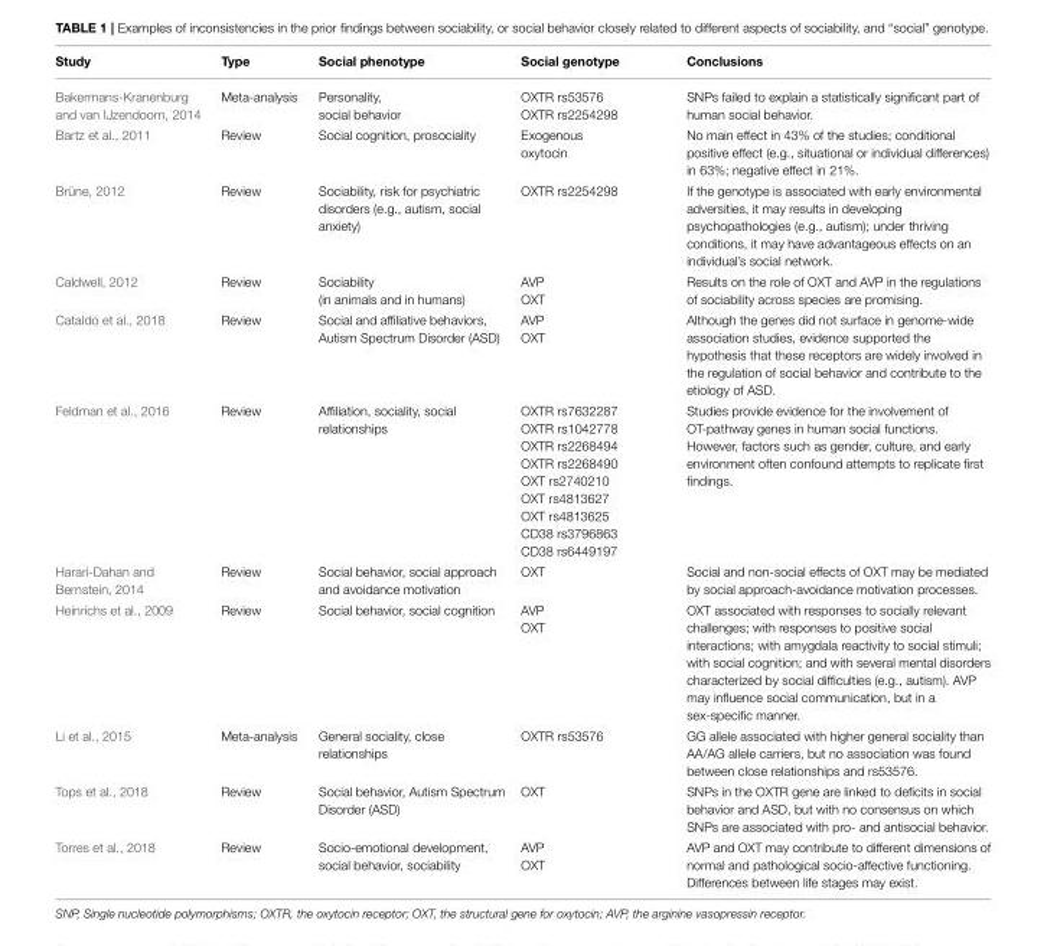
<table><thead><tr><td>Study</td><td>Type</td><td>Social phenotype</td><td>Social genotype</td><td>Conclusions</td></tr></thead><tbody><tr><td>Bakermans-Kranenburg and van IJzendoorn, 2014</td><td>Meta-analysis</td><td>Personality, social behavior</td><td>OXTR rs53576 OXTR rs2254298</td><td>SNPs failed to explain a statistically significant part of human social behavior.</td></tr><tr><td>Bartz et al., 2011</td><td>Review</td><td>Social cognition, prosociality</td><td>Exogenous oxytocin</td><td>No main effect in 43% of the studies; conditional positive effect (e.g., situational or individual differences) in 63%; negative effect in 21%.</td></tr><tr><td>Brüne, 2012</td><td>Review</td><td>Sociability, risk for psychiatric disorders (e.g., autism, social anxiety)</td><td>OXTR rs2254298</td><td>If the genotype is associated with early environmental adversities, it may results in developing psychopathologies (e.g., autism); under thriving conditions, it may have advantageous effects on an individual’s social network.</td></tr><tr><td>Caldwell, 2012</td><td>Review</td><td>Sociability (in animals and in humans)</td><td>AVP OXT</td><td>Results on the role of OXT and AVP in the regulations of sociability across species are promising.</td></tr><tr><td>Cataldo et al., 2018</td><td>Review</td><td>Social and affiliative behaviors, Autism Spectrum Disorder (ASD)</td><td>AVP OXT</td><td>Although the genes did not surface in genome-wide association studies, evidence supported the hypothesis that these receptors are widely involved in the regulation of social behavior and contribute to the etiology of ASD.</td></tr><tr><td>Feldman et al., 2016</td><td>Review</td><td>Affiliation, sociality, social relationships</td><td>OXTR rs7632287 OXTR rs1042778 OXTR rs2268494 OXTR rs2268490 OXT rs2740210 OXT rs4813627 OXT rs4813625 CD38 rs3796863 CD38 rs6449197</td><td>Studies provide evidence for the involvement of OT-pathway genes in human social functions. However, factors such as gender, culture, and early environment often confound attempts to replicate first findings.</td></tr><tr><td>Harari-Dahan and Bernstein, 2014</td><td>Review</td><td>Social behavior, social approach and avoidance motivation</td><td>OXT</td><td>Social and non-social effects of OXT may be mediated by social approach-avoidance motivation processes.</td></tr><tr><td>Heinrichs et al., 2009</td><td>Review</td><td>Social behavior, social cognition</td><td>AVP OXT</td><td>OXT associated with responses to socially relevant challenges; with responses to positive social interactions; with amygdala reactivity to social stimuli; with social cognition; and with several mental disorders characterized by social difficulties (e.g., autism). AVP may influence social communication, but in a sex-specific manner.</td></tr><tr><td>Li et al., 2015</td><td>Meta-analysis</td><td>General sociality, close relationships</td><td>OXTR rs53576</td><td>GG allele associated with higher general sociality than AA/AG allele carriers, but no association was found between close relationships and rs53576.</td></tr><tr><td>Tops et al., 2018</td><td>Review</td><td>Social behavior, Autism Spectrum Disorder (ASD)</td><td>OXT</td><td>SNPs in the OXTR gene are linked to deficits in social behavior and ASD, but with no consensus on which SNPs are associated with pro- and antisocial behavior.</td></tr><tr><td>Torres et al., 2018</td><td>Review</td><td>Socio-emotional development, social behavior, sociability</td><td>AVP OXT</td><td>AVP and OXT may contribute to different dimensions of normal and pathological socio-affective functioning. Differences between life stages may exist.</td></tr></tbody></table>